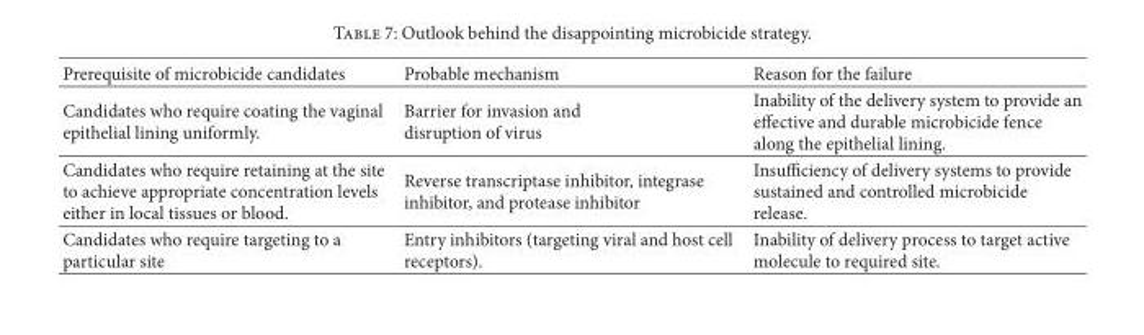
<table><thead><tr><td>Prerequisite of microbicide candidates</td><td>Probable mechanism</td><td>Reason for the failure</td></tr></thead><tbody><tr><td>Candidates who require coating the vaginal epithelial lining uniformly.</td><td>Barrier for invasion and disruption of virus</td><td>Inability of the delivery system to provide an effective and durable microbicide fence along the epithelial lining.</td></tr><tr><td>Candidates who require retaining at the site to achieve appropriate concentration levels either in local tissues or blood.</td><td>Reverse transcriptase inhibitor, integrase inhibitor, and protease inhibitor</td><td>Insufficiency of delivery systems to provide sustained and controlled microbicide release.</td></tr><tr><td>Candidates who require targeting to a particular site</td><td>Entry inhibitors (targeting viral and host cell receptors).</td><td>Inability of delivery process to target active molecule to required site.</td></tr></tbody></table>